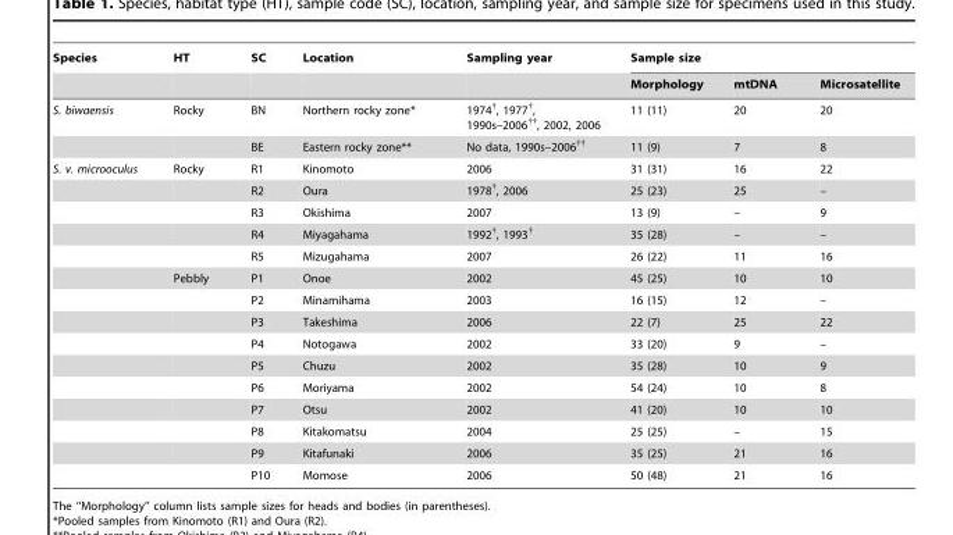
<table><thead><tr><td rowspan="2">Species</td><td rowspan="2">HT</td><td rowspan="2">SC</td><td rowspan="2">Location</td><td rowspan="2">Sampling year</td><td colspan="3">Sample size</td></tr><tr><td>Morphology</td><td>mtDNA</td><td>Microsatellite</td></tr></thead><tbody><tr><td rowspan="2">S. biwaensis</td><td>Rocky</td><td>BN</td><td>Northern rocky zone*</td><td>1974†, 1977†, 1990s–2006††, 2002, 2006</td><td>11 (11)</td><td>20</td><td>20</td></tr><tr><td></td><td>BE</td><td>Eastern rocky zone**</td><td>No data, 1990s–2006††</td><td>11 (9)</td><td>7</td><td>8</td></tr><tr><td rowspan="15">S. v. microoculus</td><td>Rocky</td><td>R1</td><td>Kinomoto</td><td>2006</td><td>31 (31)</td><td>16</td><td>22</td></tr><tr><td></td><td>R2</td><td>Oura</td><td>1978†, 2006</td><td>25 (23)</td><td>25</td><td>–</td></tr><tr><td></td><td>R3</td><td>Okishima</td><td>2007</td><td>13 (9)</td><td>–</td><td>9</td></tr><tr><td></td><td>R4</td><td>Miyagahama</td><td>1992†, 1993†</td><td>35 (28)</td><td>–</td><td>–</td></tr><tr><td></td><td>R5</td><td>Mizugahama</td><td>2007</td><td>26 (22)</td><td>11</td><td>16</td></tr><tr><td>Pebbly</td><td>P1</td><td>Onoe</td><td>2002</td><td>45 (25)</td><td>10</td><td>10</td></tr><tr><td></td><td>P2</td><td>Minamihama</td><td>2003</td><td>16 (15)</td><td>12</td><td>–</td></tr><tr><td></td><td>P3</td><td>Takeshima</td><td>2006</td><td>22 (7)</td><td>25</td><td>22</td></tr><tr><td></td><td>P4</td><td>Notogawa</td><td>2002</td><td>33 (20)</td><td>9</td><td>–</td></tr><tr><td></td><td>P5</td><td>Chuzu</td><td>2002</td><td>35 (28)</td><td>10</td><td>9</td></tr><tr><td></td><td>P6</td><td>Moriyama</td><td>2002</td><td>54 (24)</td><td>10</td><td>8</td></tr><tr><td></td><td>P7</td><td>Otsu</td><td>2002</td><td>41 (20)</td><td>10</td><td>10</td></tr><tr><td></td><td>P8</td><td>Kitakomatsu</td><td>2004</td><td>25 (25)</td><td>–</td><td>15</td></tr><tr><td></td><td>P9</td><td>Kitafunaki</td><td>2006</td><td>35 (25)</td><td>21</td><td>16</td></tr><tr><td></td><td>P10</td><td>Momose</td><td>2006</td><td>50 (48)</td><td>21</td><td>16</td></tr></tbody></table>